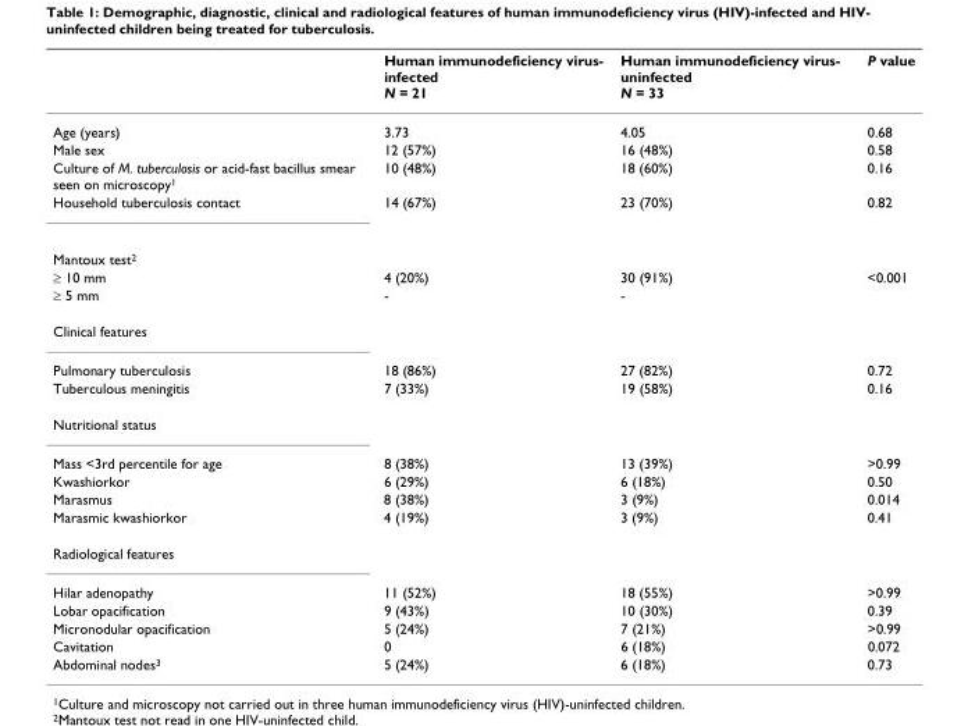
<table><thead><tr><td></td><td>Human immunodeficiency virus- infected N = 21</td><td>Human immunodeficiency virus- uninfected N = 33</td><td>P value</td></tr></thead><tbody><tr><td>Age (years)</td><td>3.73</td><td>4.05</td><td>0.68</td></tr><tr><td>Male sex</td><td>12 (57%)</td><td>16 (48%)</td><td>0.58</td></tr><tr><td>Culture of M. tuberculosis or acid-fast bacillus smear seen on microscopy<sup>1</sup></td><td>10 (48%)</td><td>18 (60%)</td><td>0.16</td></tr><tr><td>Household tuberculosis contact</td><td>14 (67%)</td><td>23 (70%)</td><td>0.82</td></tr><tr><td colspan="4">Mantoux test<sup>2</sup></td></tr><tr><td>≥ 10 mm</td><td>4 (20%)</td><td>30 (91%)</td><td>&lt;0.001</td></tr><tr><td>≥ 5 mm</td><td>-</td><td>-</td><td></td></tr><tr><td colspan="4">Clinical features</td></tr><tr><td>Pulmonary tuberculosis</td><td>18 (86%)</td><td>27 (82%)</td><td>0.72</td></tr><tr><td>Tuberculous meningitis</td><td>7 (33%)</td><td>19 (58%)</td><td>0.16</td></tr><tr><td colspan="4">Nutritional status</td></tr><tr><td>Mass &lt;3rd percentile for age</td><td>8 (38%)</td><td>13 (39%)</td><td>&gt;0.99</td></tr><tr><td>Kwashiorkor</td><td>6 (29%)</td><td>6 (18%)</td><td>0.50</td></tr><tr><td>Marasmus</td><td>8 (38%)</td><td>3 (9%)</td><td>0.014</td></tr><tr><td>Marasmic kwashiorkor</td><td>4 (19%)</td><td>3 (9%)</td><td>0.41</td></tr><tr><td colspan="4">Radiological features</td></tr><tr><td>Hilar adenopathy</td><td>11 (52%)</td><td>18 (55%)</td><td>&gt;0.99</td></tr><tr><td>Lobar opacification</td><td>9 (43%)</td><td>10 (30%)</td><td>0.39</td></tr><tr><td>Micronodular opacification</td><td>5 (24%)</td><td>7 (21%)</td><td>&gt;0.99</td></tr><tr><td>Cavitation</td><td>0</td><td>6 (18%)</td><td>0.072</td></tr><tr><td>Abdominal nodes<sup>3</sup></td><td>5 (24%)</td><td>6 (18%)</td><td>0.73</td></tr></tbody></table>